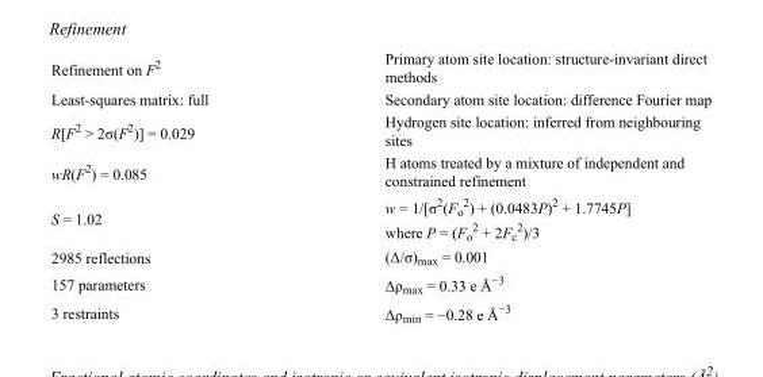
<table><tbody><tr><td>Refinement on F<sup>2</sup></td><td>Primary atom site location: structure-invariant direct methods</td></tr><tr><td>Least-squares matrix: full</td><td>Secondary atom site location: difference Fourier map</td></tr><tr><td>R[F<sup>2</sup> &gt; 2σ(F<sup>2</sup>)] = 0.029</td><td>Hydrogen site location: inferred from neighbouring sites</td></tr><tr><td>wR(F<sup>2</sup>) = 0.085</td><td>H atoms treated by a mixture of independent and constrained refinement</td></tr><tr><td>S = 1.02</td><td>w = 1/[σ<sup>2</sup>(F<sub>o</sub> <sup>2</sup>) + (0.0483P)<sup>2</sup> + 1.7745P] where P = (F<sub>o</sub> <sup>2</sup> + 2F<sub>c</sub> <sup>2</sup>)/3</td></tr><tr><td>2985 reflections</td><td>(Δ/σ)<sub>max</sub> = 0.001</td></tr><tr><td>157 parameters</td><td>Δρ<sub>max</sub> = 0.33 e Å<sup>−3</sup></td></tr><tr><td>3 restraints</td><td>Δρ<sub>min</sub> = −0.28 e Å<sup>−3</sup></td></tr></tbody></table>